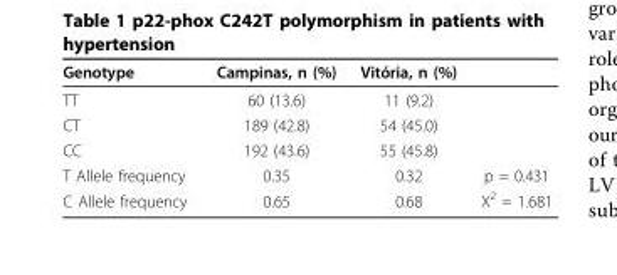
<table><thead><tr><td>Genotype</td><td>Campinas, n (%)</td><td>Vitória, n (%)</td><td></td></tr></thead><tbody><tr><td>TT</td><td>60 (13.6)</td><td>11 (9.2)</td><td></td></tr><tr><td>CT</td><td>189 (42.8)</td><td>54 (45.0)</td><td></td></tr><tr><td>CC</td><td>192 (43.6)</td><td>55 (45.8)</td><td></td></tr><tr><td>T Allele frequency</td><td>0.35</td><td>0.32</td><td>p = 0.431</td></tr><tr><td>C Allele frequency</td><td>0.65</td><td>0.68</td><td>X<sup>2</sup> = 1.681</td></tr></tbody></table>